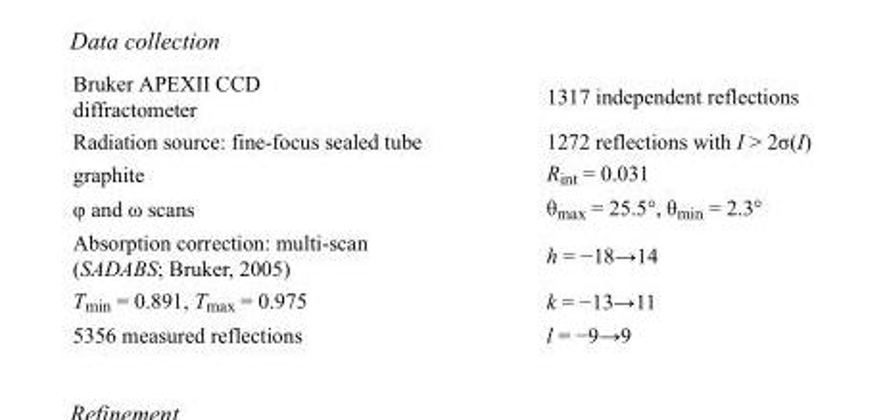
<table><tbody><tr><td>Bruker APEXII CCD diffractometer</td><td>1317 independent reflections</td></tr><tr><td>Radiation source: fine-focus sealed tube</td><td>1272 reflections with I &gt; 2σ(I)</td></tr><tr><td>graphite</td><td>R<sub>int</sub> = 0.031</td></tr><tr><td>φ and ω scans</td><td>θ<sub>max</sub> = 25.5°, θ<sub>min</sub> = 2.3°</td></tr><tr><td>Absorption correction: multi-scan (SADABS; Bruker, 2005)</td><td>h = −18→14</td></tr><tr><td>T<sub>min</sub> = 0.891, T<sub>max</sub> = 0.975</td><td>k = −13→11</td></tr><tr><td>5356 measured reflections</td><td>l = −9→9</td></tr></tbody></table>